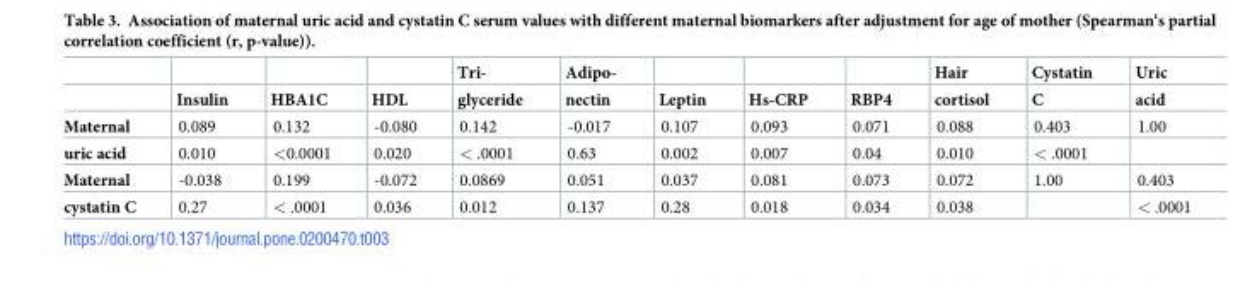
<table><thead><tr><td rowspan="2"></td><td rowspan="2">Insulin</td><td rowspan="2">HBA1C</td><td rowspan="2">HDL</td><td rowspan="2">Tri- glyceride</td><td rowspan="2">Adipo- nectin</td><td rowspan="2">Leptin</td><td rowspan="2">Hs-CRP</td><td rowspan="2">RBP4</td><td rowspan="2">Hair cortisol</td><td rowspan="2">Cystatin C</td><td rowspan="2">Uric acid</td></tr><tr></tr></thead><tbody><tr><td>Maternal</td><td>0.089</td><td>0.132</td><td>-0.080</td><td>0.142</td><td>-0.017</td><td>0.107</td><td>0.093</td><td>0.071</td><td>0.088</td><td>0.403</td><td>1.00</td></tr><tr><td>uric acid</td><td>0.010</td><td>&lt;0.0001</td><td>0.020</td><td>&lt; .0001</td><td>0.63</td><td>0.002</td><td>0.007</td><td>0.04</td><td>0.010</td><td>&lt; .0001</td><td></td></tr><tr><td>Maternal</td><td>-0.038</td><td>0.199</td><td>-0.072</td><td>0.0869</td><td>0.051</td><td>0.037</td><td>0.081</td><td>0.073</td><td>0.072</td><td>1.00</td><td>0.403</td></tr><tr><td>cystatin C</td><td>0.27</td><td>&lt; .0001</td><td>0.036</td><td>0.012</td><td>0.137</td><td>0.28</td><td>0.018</td><td>0.034</td><td>0.038</td><td></td><td>&lt; .0001</td></tr></tbody></table>